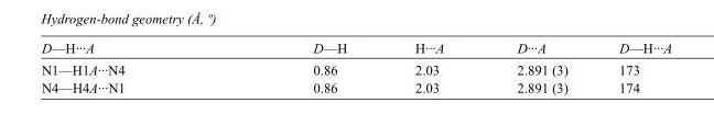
<table><tbody><tr><td>D—H···A</td><td>D—H</td><td>H···A</td><td>D···A</td><td>D—H···A</td></tr><tr><td>N1—H1A···N4</td><td>0.86</td><td>2.03</td><td>2.891 (3)</td><td>173</td></tr><tr><td>N4—H4A···N1</td><td>0.86</td><td>2.03</td><td>2.891 (3)</td><td>174</td></tr></tbody></table>